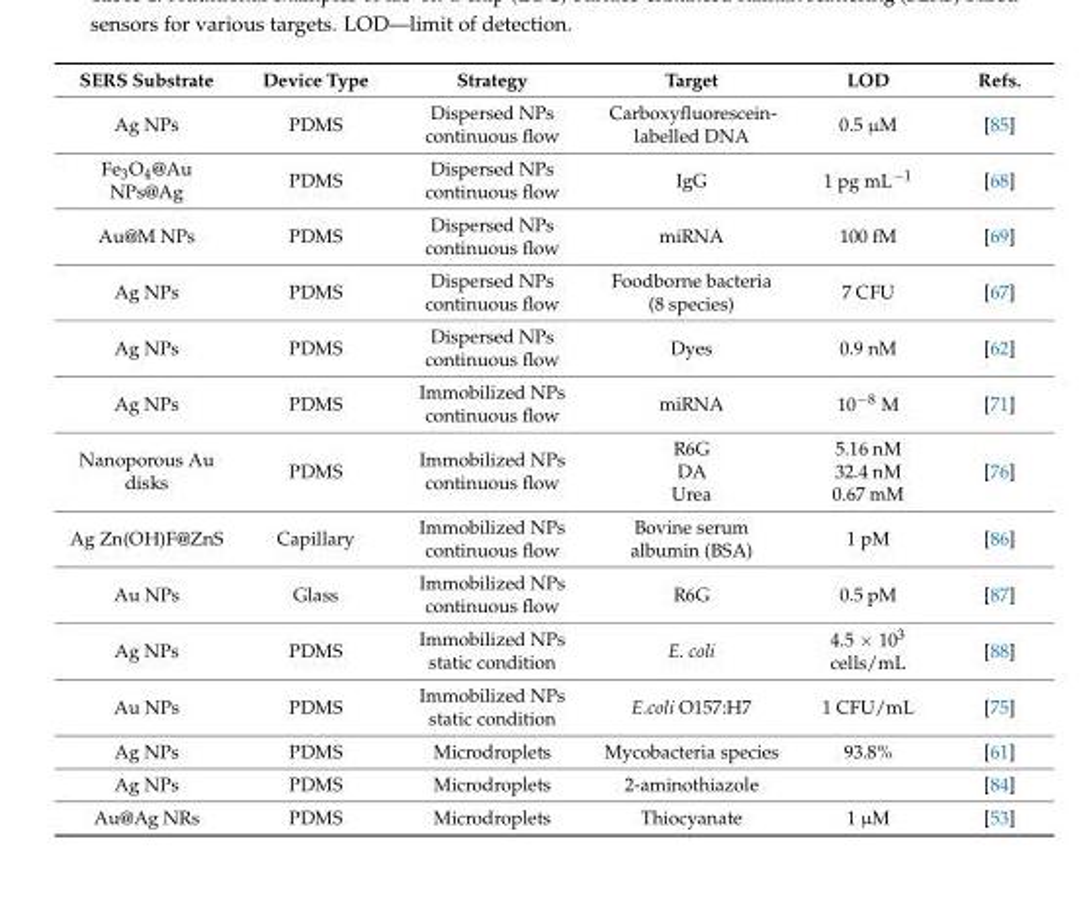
<table><thead><tr><td>SERS Substrate</td><td>Device Type</td><td>Strategy</td><td>Target</td><td>LOD</td><td>Refs.</td></tr></thead><tbody><tr><td>Ag NPs</td><td>PDMS</td><td>Dispersed NPs continuous flow</td><td>Carboxyfluorescein- labelled DNA</td><td>0.5 µM</td><td>[85]</td></tr><tr><td>Fe<sub>3</sub>O<sub>4</sub>@Au NPs@Ag</td><td>PDMS</td><td>Dispersed NPs continuous flow</td><td>IgG</td><td>1 pg mL<sup>−1</sup></td><td>[68]</td></tr><tr><td>Au@M NPs</td><td>PDMS</td><td>Dispersed NPs continuous flow</td><td>miRNA</td><td>100 fM</td><td>[69]</td></tr><tr><td>Ag NPs</td><td>PDMS</td><td>Dispersed NPs continuous flow</td><td>Foodborne bacteria (8 species)</td><td>7 CFU</td><td>[67]</td></tr><tr><td>Ag NPs</td><td>PDMS</td><td>Dispersed NPs continuous flow</td><td>Dyes</td><td>0.9 nM</td><td>[62]</td></tr><tr><td>Ag NPs</td><td>PDMS</td><td>Immobilized NPs continuous flow</td><td>miRNA</td><td>10<sup>−8</sup> M</td><td>[71]</td></tr><tr><td>Nanoporous Au disks</td><td>PDMS</td><td>Immobilized NPs continuous flow</td><td>R6G DA Urea</td><td>5.16 nM 32.4 nM 0.67 mM</td><td>[76]</td></tr><tr><td>Ag Zn(OH)F@ZnS</td><td>Capillary</td><td>Immobilized NPs continuous flow</td><td>Bovine serum albumin (BSA)</td><td>1 pM</td><td>[86]</td></tr><tr><td>Au NPs</td><td>Glass</td><td>Immobilized NPs continuous flow</td><td>R6G</td><td>0.5 pM</td><td>[87]</td></tr><tr><td>Ag NPs</td><td>PDMS</td><td>Immobilized NPs static condition</td><td>E. coli</td><td>4.5 × 10<sup>3</sup> cells/mL</td><td>[88]</td></tr><tr><td>Au NPs</td><td>PDMS</td><td>Immobilized NPs static condition</td><td>E.coli O157:H7</td><td>1 CFU/mL</td><td>[75]</td></tr><tr><td>Ag NPs</td><td>PDMS</td><td>Microdroplets</td><td>Mycobacteria species</td><td>93.8%</td><td>[61]</td></tr><tr><td>Ag NPs</td><td>PDMS</td><td>Microdroplets</td><td>2-aminothiazole</td><td></td><td>[84]</td></tr><tr><td>Au@Ag NRs</td><td>PDMS</td><td>Microdroplets</td><td>Thiocyanate</td><td>1 µM</td><td>[53]</td></tr></tbody></table>